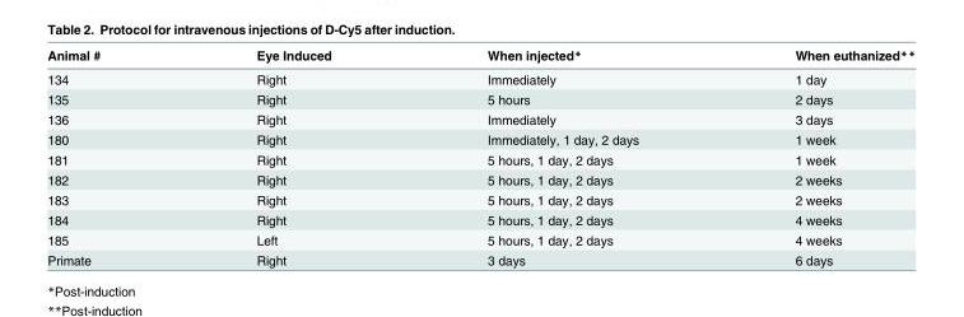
<table><thead><tr><td>Animal #</td><td>Eye Induced</td><td>When injected*</td><td>When euthanized**</td></tr></thead><tbody><tr><td>134</td><td>Right</td><td>Immediately</td><td>1 day</td></tr><tr><td>135</td><td>Right</td><td>5 hours</td><td>2 days</td></tr><tr><td>136</td><td>Right</td><td>Immediately</td><td>3 days</td></tr><tr><td>180</td><td>Right</td><td>Immediately, 1 day, 2 days</td><td>1 week</td></tr><tr><td>181</td><td>Right</td><td>5 hours, 1 day, 2 days</td><td>1 week</td></tr><tr><td>182</td><td>Right</td><td>5 hours, 1 day, 2 days</td><td>2 weeks</td></tr><tr><td>183</td><td>Right</td><td>5 hours, 1 day, 2 days</td><td>2 weeks</td></tr><tr><td>184</td><td>Right</td><td>5 hours, 1 day, 2 days</td><td>4 weeks</td></tr><tr><td>185</td><td>Left</td><td>5 hours, 1 day, 2 days</td><td>4 weeks</td></tr><tr><td>Primate</td><td>Right</td><td>3 days</td><td>6 days</td></tr></tbody></table>